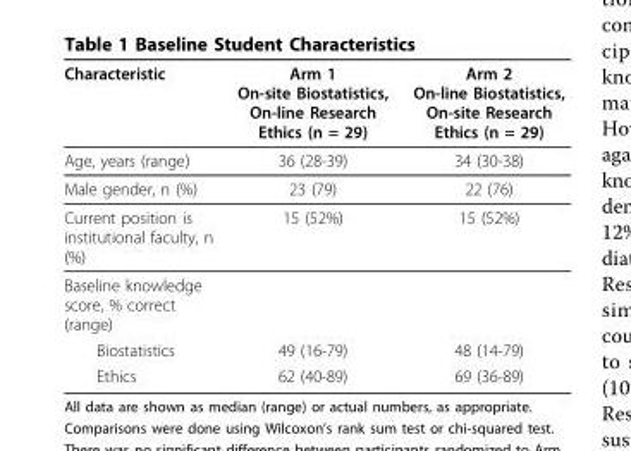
<table><thead><tr><td>Characteristic</td><td>Arm 1 On-site Biostatistics, On-line Research Ethics (n = 29)</td><td>Arm 2 On-line Biostatistics, On-site Research Ethics (n = 29)</td></tr></thead><tbody><tr><td>Age, years (range)</td><td>36 (28-39)</td><td>34 (30-38)</td></tr><tr><td>Male gender, n (%)</td><td>23 (79)</td><td>22 (76)</td></tr><tr><td>Current position is institutional faculty, n (%)</td><td>15 (52%)</td><td>15 (52%)</td></tr><tr><td colspan="3">Baseline knowledge score, % correct (range)</td></tr><tr><td>Biostatistics</td><td>49 (16-79)</td><td>48 (14-79)</td></tr><tr><td>Ethics</td><td>62 (40-89)</td><td>69 (36-89)</td></tr></tbody></table>